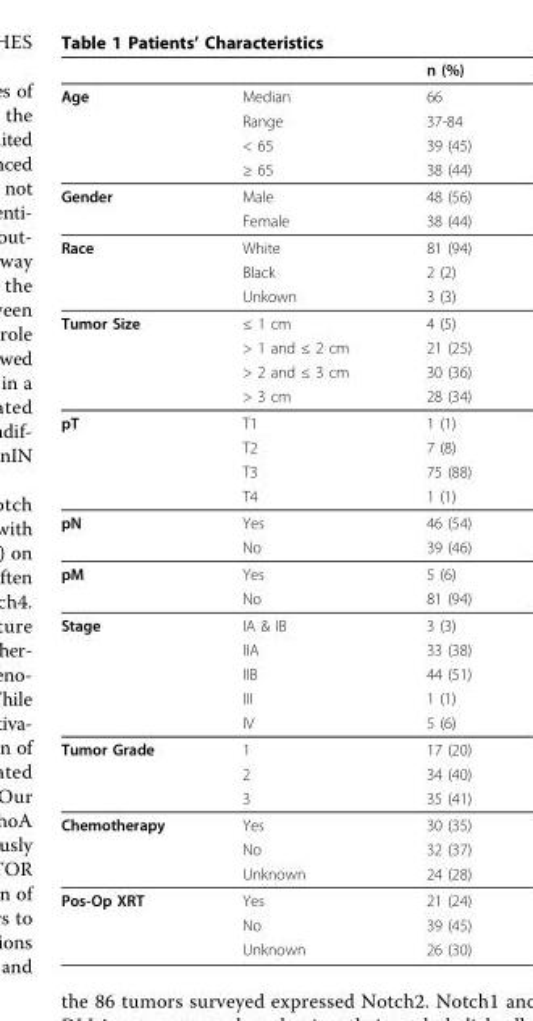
<table><thead><tr><td></td><td></td><td>n (%)</td></tr></thead><tbody><tr><td rowspan="4">Age</td><td>Median</td><td>66</td></tr><tr><td>Range</td><td>37-84</td></tr><tr><td>&lt; 65</td><td>39 (45)</td></tr><tr><td>≥ 65</td><td>38 (44)</td></tr><tr><td rowspan="2">Gender</td><td>Male</td><td>48 (56)</td></tr><tr><td>Female</td><td>38 (44)</td></tr><tr><td rowspan="3">Race</td><td>White</td><td>81 (94)</td></tr><tr><td>Black</td><td>2 (2)</td></tr><tr><td>Unkown</td><td>3 (3)</td></tr><tr><td rowspan="4">Tumor Size</td><td>≤ 1 cm</td><td>4 (5)</td></tr><tr><td>&gt; 1 and ≤ 2 cm</td><td>21 (25)</td></tr><tr><td>&gt; 2 and ≤ 3 cm</td><td>30 (36)</td></tr><tr><td>&gt; 3 cm</td><td>28 (34)</td></tr><tr><td rowspan="4">pT</td><td>T1</td><td>1 (1)</td></tr><tr><td>T2</td><td>7 (8)</td></tr><tr><td>T3</td><td>75 (88)</td></tr><tr><td>T4</td><td>1 (1)</td></tr><tr><td rowspan="2">pN</td><td>Yes</td><td>46 (54)</td></tr><tr><td>No</td><td>39 (46)</td></tr><tr><td rowspan="2">pM</td><td>Yes</td><td>5 (6)</td></tr><tr><td>No</td><td>81 (94)</td></tr><tr><td rowspan="5">Stage</td><td>IA &amp; IB</td><td>3 (3)</td></tr><tr><td>IIA</td><td>33 (38)</td></tr><tr><td>IIB</td><td>44 (51)</td></tr><tr><td>III</td><td>1 (1)</td></tr><tr><td>IV</td><td>5 (6)</td></tr><tr><td rowspan="3">Tumor Grade</td><td>1</td><td>17 (20)</td></tr><tr><td>2</td><td>34 (40)</td></tr><tr><td>3</td><td>35 (41)</td></tr><tr><td rowspan="3">Chemotherapy</td><td>Yes</td><td>30 (35)</td></tr><tr><td>No</td><td>32 (37)</td></tr><tr><td>Unknown</td><td>24 (28)</td></tr><tr><td rowspan="3">Pos-Op XRT</td><td>Yes</td><td>21 (24)</td></tr><tr><td>No</td><td>39 (45)</td></tr><tr><td>Unknown</td><td>26 (30)</td></tr></tbody></table>